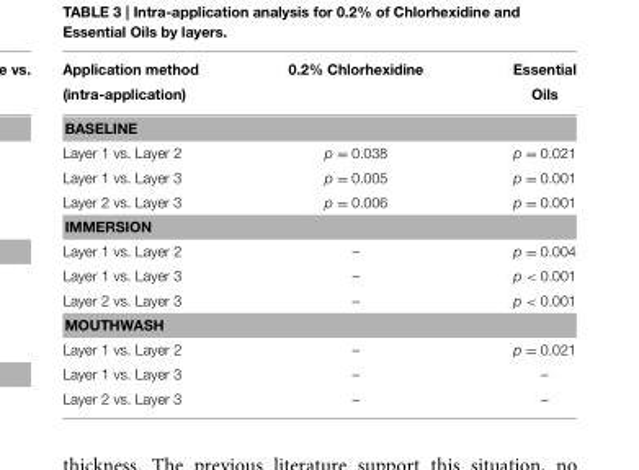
<table><thead><tr><td>Application method (intra-application)</td><td>0.2% Chlorhexidine</td><td>Essential Oils</td></tr></thead><tbody><tr><td colspan="3">BASELINE</td></tr><tr><td>Layer 1 vs. Layer 2</td><td>p = 0.038</td><td>p = 0.021</td></tr><tr><td>Layer 1 vs. Layer 3</td><td>p = 0.005</td><td>p = 0.001</td></tr><tr><td>Layer 2 vs. Layer 3</td><td>p = 0.006</td><td>p = 0.001</td></tr><tr><td colspan="3">IMMERSION</td></tr><tr><td>Layer 1 vs. Layer 2</td><td>–</td><td>p = 0.004</td></tr><tr><td>Layer 1 vs. Layer 3</td><td>–</td><td>p &lt; 0.001</td></tr><tr><td>Layer 2 vs. Layer 3</td><td>–</td><td>p &lt; 0.001</td></tr><tr><td colspan="3">MOUTHWASH</td></tr><tr><td>Layer 1 vs. Layer 2</td><td>–</td><td>p = 0.021</td></tr><tr><td>Layer 1 vs. Layer 3</td><td>–</td><td>–</td></tr><tr><td>Layer 2 vs. Layer 3</td><td>–</td><td>–</td></tr></tbody></table>